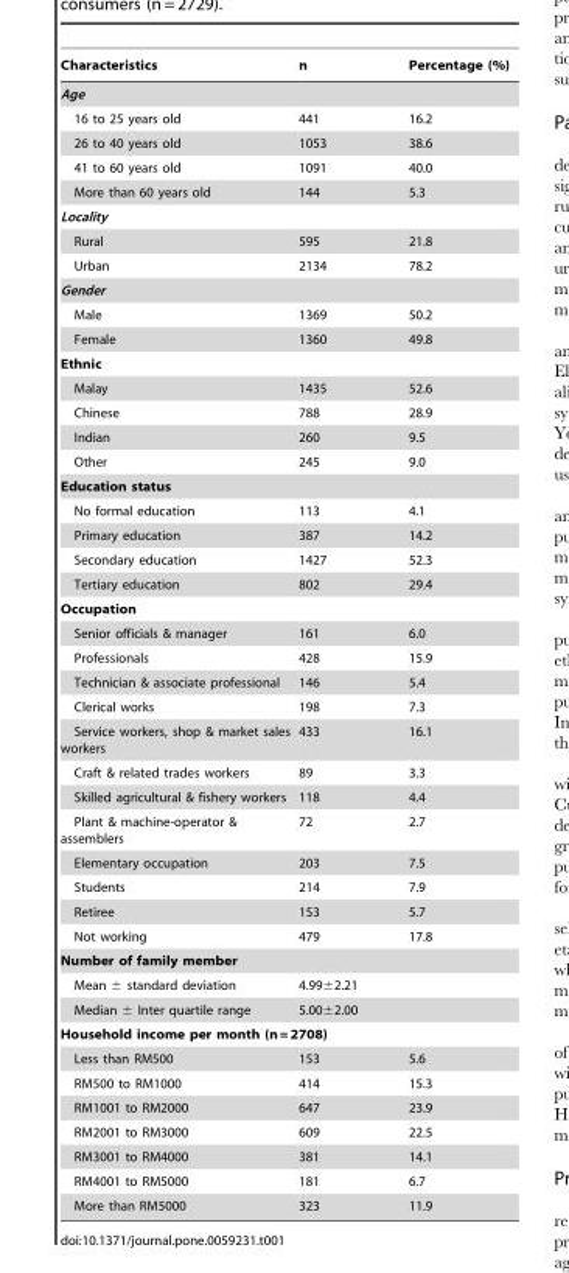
<table><thead><tr><td>Characteristics</td><td>n</td><td>Percentage (%)</td></tr></thead><tbody><tr><td colspan="3">Age</td></tr><tr><td>16 to 25 years old</td><td>441</td><td>16.2</td></tr><tr><td>26 to 40 years old</td><td>1053</td><td>38.6</td></tr><tr><td>41 to 60 years old</td><td>1091</td><td>40.0</td></tr><tr><td>More than 60 years old</td><td>144</td><td>5.3</td></tr><tr><td colspan="3">Locality</td></tr><tr><td>Rural</td><td>595</td><td>21.8</td></tr><tr><td>Urban</td><td>2134</td><td>78.2</td></tr><tr><td colspan="3">Gender</td></tr><tr><td>Male</td><td>1369</td><td>50.2</td></tr><tr><td>Female</td><td>1360</td><td>49.8</td></tr><tr><td colspan="3">Ethnic</td></tr><tr><td>Malay</td><td>1435</td><td>52.6</td></tr><tr><td>Chinese</td><td>788</td><td>28.9</td></tr><tr><td>Indian</td><td>260</td><td>9.5</td></tr><tr><td>Other</td><td>245</td><td>9.0</td></tr><tr><td colspan="3">Education status</td></tr><tr><td>No formal education</td><td>113</td><td>4.1</td></tr><tr><td>Primary education</td><td>387</td><td>14.2</td></tr><tr><td>Secondary education</td><td>1427</td><td>52.3</td></tr><tr><td>Tertiary education</td><td>802</td><td>29.4</td></tr><tr><td colspan="3">Occupation</td></tr><tr><td>Senior officials &amp; manager</td><td>161</td><td>6.0</td></tr><tr><td>Professionals</td><td>428</td><td>15.9</td></tr><tr><td>Technician &amp; associate professional</td><td>146</td><td>5.4</td></tr><tr><td>Clerical works</td><td>198</td><td>7.3</td></tr><tr><td>Service workers, shop &amp; market sales workers</td><td>433</td><td>16.1</td></tr><tr><td>Craft &amp; related trades workers</td><td>89</td><td>3.3</td></tr><tr><td>Skilled agricultural &amp; fishery workers</td><td>118</td><td>4.4</td></tr><tr><td>Plant &amp; machine-operator &amp; assemblers</td><td>72</td><td>2.7</td></tr><tr><td>Elementary occupation</td><td>203</td><td>7.5</td></tr><tr><td>Students</td><td>214</td><td>7.9</td></tr><tr><td>Retiree</td><td>153</td><td>5.7</td></tr><tr><td>Not working</td><td>479</td><td>17.8</td></tr><tr><td colspan="3">Number of family member</td></tr><tr><td>Mean ± standard deviation</td><td>4.99±2.21</td><td></td></tr><tr><td>Median ± Inter quartile range</td><td>5.00±2.00</td><td></td></tr><tr><td colspan="3">Household income per month (n = 2708)</td></tr><tr><td>Less than RM500</td><td>153</td><td>5.6</td></tr><tr><td>RM500 to RM1000</td><td>414</td><td>15.3</td></tr><tr><td>RM1001 to RM2000</td><td>647</td><td>23.9</td></tr><tr><td>RM2001 to RM3000</td><td>609</td><td>22.5</td></tr><tr><td>RM3001 to RM4000</td><td>381</td><td>14.1</td></tr><tr><td>RM4001 to RM5000</td><td>181</td><td>6.7</td></tr><tr><td>More than RM5000</td><td>323</td><td>11.9</td></tr></tbody></table>